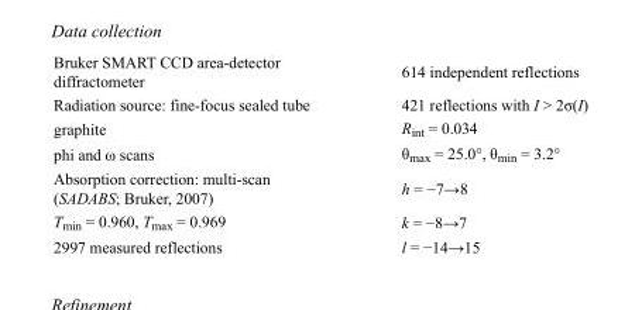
<table><tbody><tr><td>Bruker SMART CCD area-detector diffractometer</td><td>614 independent reflections</td></tr><tr><td>Radiation source: fine-focus sealed tube</td><td>421 reflections with I &gt; 2σ(I)</td></tr><tr><td>graphite</td><td>R<sub>int</sub> = 0.034</td></tr><tr><td>phi and ω scans</td><td>θ<sub>max</sub> = 25.0°, θ<sub>min</sub> = 3.2°</td></tr><tr><td>Absorption correction: multi-scan (SADABS; Bruker, 2007)</td><td>h = −7→8</td></tr><tr><td>T<sub>min</sub> = 0.960, T<sub>max</sub> = 0.969</td><td>k = −8→7</td></tr><tr><td>2997 measured reflections</td><td>l = −14→15</td></tr></tbody></table>